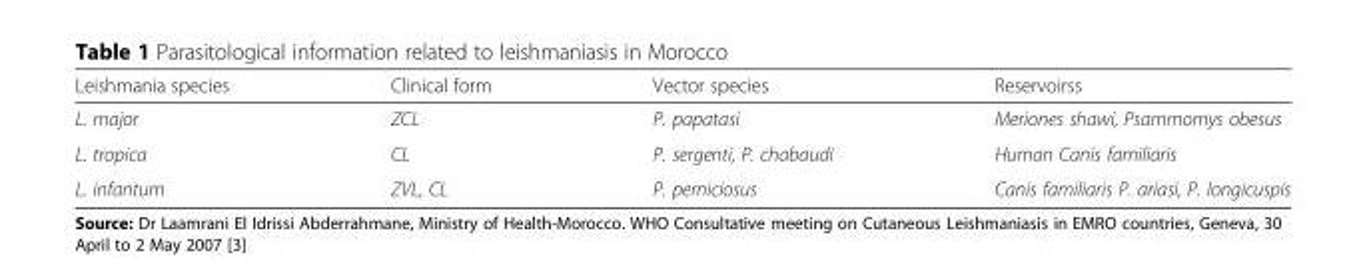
<table><thead><tr><td>Leishmania species</td><td>Clinical form</td><td>Vector species</td><td>Reservoirss</td></tr></thead><tbody><tr><td>L. major</td><td>ZCL</td><td>P. papatasi</td><td>Meriones shawi, Psammomys obesus</td></tr><tr><td>L. tropica</td><td>CL</td><td>P. sergenti, P. chabaudi</td><td>Human Canis familiaris</td></tr><tr><td>L. infantum</td><td>ZVL, CL</td><td>P. perniciosus</td><td>Canis familiaris P. ariasi, P. longicuspis</td></tr></tbody></table>